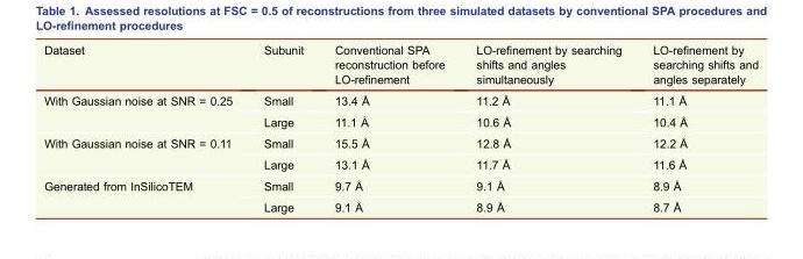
<table><thead><tr><td>Dataset</td><td>Subunit</td><td>Conventional SPA reconstruction before LO-refinement</td><td>LO-refinement by searching shifts and angles simultaneously</td><td>LO-refinement by searching shifts and angles separately</td></tr></thead><tbody><tr><td rowspan="2">With Gaussian noise at SNR = 0.25</td><td>Small</td><td>13.4 Å</td><td>11.2 Å</td><td>11.1 Å</td></tr><tr><td>Large</td><td>11.1 Å</td><td>10.6 Å</td><td>10.4 Å</td></tr><tr><td rowspan="2">With Gaussian noise at SNR = 0.11</td><td>Small</td><td>15.5 Å</td><td>12.8 Å</td><td>12.2 Å</td></tr><tr><td>Large</td><td>13.1 Å</td><td>11.7 Å</td><td>11.6 Å</td></tr><tr><td rowspan="2">Generated from InSilicoTEM</td><td>Small</td><td>9.7 Å</td><td>9.1 Å</td><td>8.9 Å</td></tr><tr><td>Large</td><td>9.1 Å</td><td>8.9 Å</td><td>8.7 Å</td></tr></tbody></table>